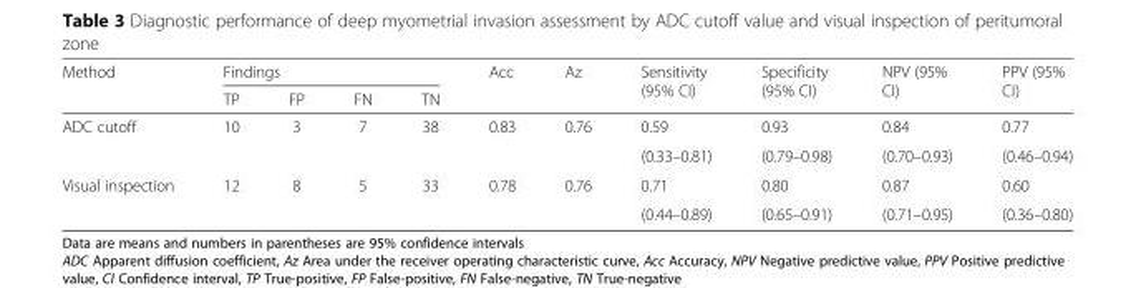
<table><thead><tr><td rowspan="2">Method</td><td colspan="4">Findings</td><td rowspan="2">Acc</td><td rowspan="2">Az</td><td rowspan="2">Sensitivity (95% CI)</td><td rowspan="2">Specificity (95% CI)</td><td rowspan="2">NPV (95% CI)</td><td rowspan="2">PPV (95% CI)</td></tr><tr><td>TP</td><td>FP</td><td>FN</td><td>TN</td></tr></thead><tbody><tr><td rowspan="2">ADC cutoff</td><td rowspan="2">10</td><td rowspan="2">3</td><td rowspan="2">7</td><td rowspan="2">38</td><td rowspan="2">0.83</td><td rowspan="2">0.76</td><td>0.59</td><td>0.93</td><td>0.84</td><td>0.77</td></tr><tr><td>(0.33–0.81)</td><td>(0.79–0.98)</td><td>(0.70–0.93)</td><td>(0.46–0.94)</td></tr><tr><td rowspan="2">Visual inspection</td><td rowspan="2">12</td><td rowspan="2">8</td><td rowspan="2">5</td><td rowspan="2">33</td><td rowspan="2">0.78</td><td rowspan="2">0.76</td><td>0.71</td><td>0.80</td><td>0.87</td><td>0.60</td></tr><tr><td>(0.44–0.89)</td><td>(0.65–0.91)</td><td>(0.71–0.95)</td><td>(0.36–0.80)</td></tr></tbody></table>